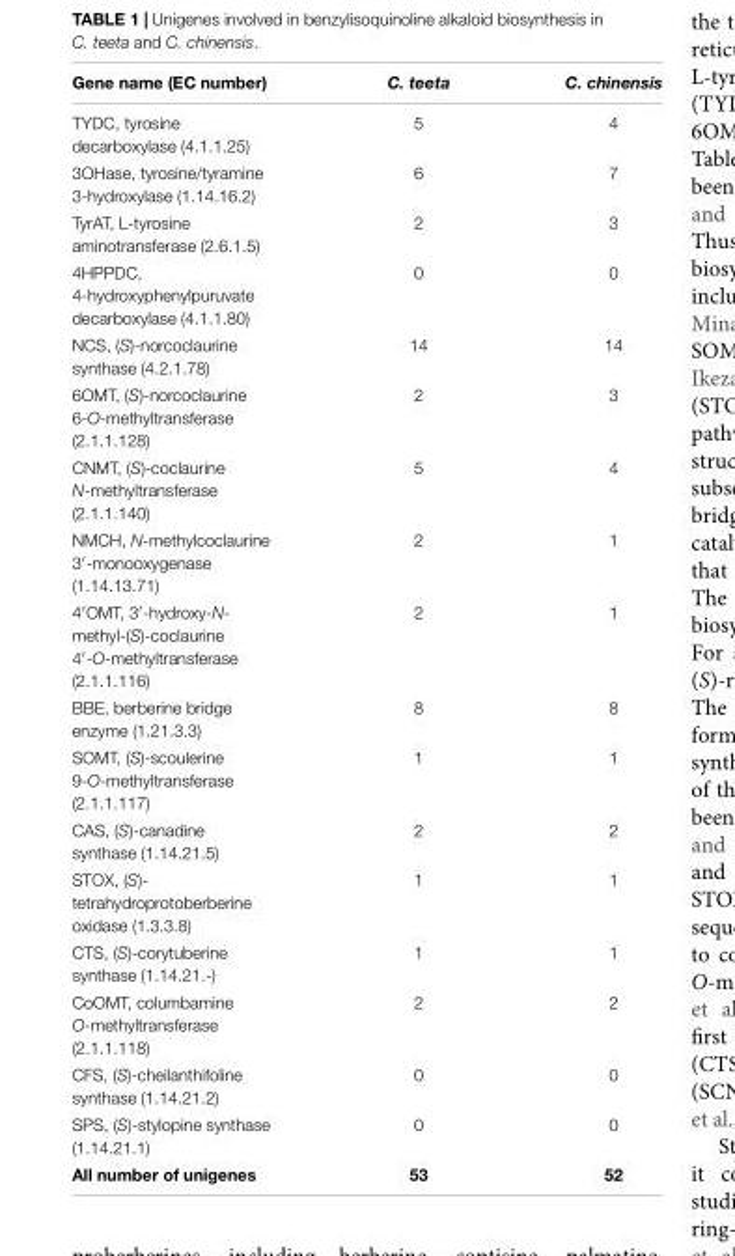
<table><thead><tr><td>Gene name (EC number)</td><td>C. teeta</td><td>C. chinensis</td></tr></thead><tbody><tr><td>TYDC, tyrosine decarboxylase (4.1.1.25)</td><td>5</td><td>4</td></tr><tr><td>3OHase, tyrosine/tyramine 3-hydroxylase (1.14.16.2)</td><td>6</td><td>7</td></tr><tr><td>TyrAT, L-tyrosine aminotransferase (2.6.1.5)</td><td>2</td><td>3</td></tr><tr><td>4HPPDC, 4-hydroxyphenylpuruvate decarboxylase (4.1.1.80)</td><td>0</td><td>0</td></tr><tr><td>NCS, (S)-norcoclaurine synthase (4.2.1.78)</td><td>14</td><td>14</td></tr><tr><td>6OMT, (S)-norcoclaurine 6-O-methyltransferase (2.1.1.128)</td><td>2</td><td>3</td></tr><tr><td>CNMT, (S)-coclaurine N-methyltransferase (2.1.1.140)</td><td>5</td><td>4</td></tr><tr><td>NMCH, N-methylcoclaurine 3<sup>′</sup>-monooxygenase (1.14.13.71)</td><td>2</td><td>1</td></tr><tr><td>4<sup>′</sup>OMT, 3<sup>′</sup>-hydroxy-N- methyl-(S)-coclaurine 4<sup>′</sup>-O-methyltransferase (2.1.1.116)</td><td>2</td><td>1</td></tr><tr><td>BBE, berberine bridge enzyme (1.21.3.3)</td><td>8</td><td>8</td></tr><tr><td>SOMT, (S)-scoulerine 9-O-methyltransferase (2.1.1.117)</td><td>1</td><td>1</td></tr><tr><td>CAS, (S)-canadine synthase (1.14.21.5)</td><td>2</td><td>2</td></tr><tr><td>STOX, (S)- tetrahydroprotoberberine oxidase (1.3.3.8)</td><td>1</td><td>1</td></tr><tr><td>CTS, (S)-corytuberine synthase (1.14.21.-)</td><td>1</td><td>1</td></tr><tr><td>CoOMT, columbamine O-methyltransferase (2.1.1.118)</td><td>2</td><td>2</td></tr><tr><td>CFS, (S)-cheilanthifoline synthase (1.14.21.2)</td><td>0</td><td>0</td></tr><tr><td>SPS, (S)-stylopine synthase (1.14.21.1)</td><td>0</td><td>0</td></tr><tr><td>All number of unigenes</td><td>53</td><td>52</td></tr></tbody></table>